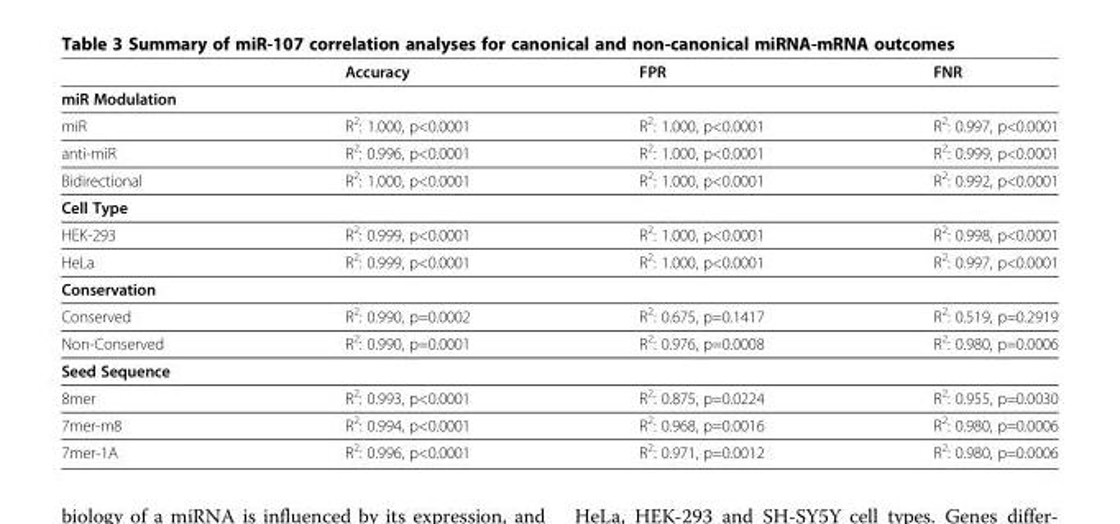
<table><thead><tr><td></td><td>Accuracy</td><td>FPR</td><td>FNR</td></tr></thead><tbody><tr><td colspan="4">miR Modulation</td></tr><tr><td>miR</td><td>R<sup>2</sup>: 1.000, p&lt;0.0001</td><td>R<sup>2</sup>: 1.000, p&lt;0.0001</td><td>R<sup>2</sup>: 0.997, p&lt;0.0001</td></tr><tr><td>anti-miR</td><td>R<sup>2</sup>: 0.996, p&lt;0.0001</td><td>R<sup>2</sup>: 1.000, p&lt;0.0001</td><td>R<sup>2</sup>: 0.999, p&lt;0.0001</td></tr><tr><td>Bidirectional</td><td>R<sup>2</sup>: 1.000, p&lt;0.0001</td><td>R<sup>2</sup>: 1.000, p&lt;0.0001</td><td>R<sup>2</sup>: 0.992, p&lt;0.0001</td></tr><tr><td colspan="4">Cell Type</td></tr><tr><td>HEK-293</td><td>R<sup>2</sup>: 0.999, p&lt;0.0001</td><td>R<sup>2</sup>: 1.000, p&lt;0.0001</td><td>R<sup>2</sup>: 0.998, p&lt;0.0001</td></tr><tr><td>HeLa</td><td>R<sup>2</sup>: 0.999, p&lt;0.0001</td><td>R<sup>2</sup>: 1.000, p&lt;0.0001</td><td>R<sup>2</sup>: 0.997, p&lt;0.0001</td></tr><tr><td colspan="4">Conservation</td></tr><tr><td>Conserved</td><td>R<sup>2</sup>: 0.990, p=0.0002</td><td>R<sup>2</sup>: 0.675, p=0.1417</td><td>R<sup>2</sup>: 0.519, p=0.2919</td></tr><tr><td>Non-Conserved</td><td>R<sup>2</sup>: 0.990, p=0.0001</td><td>R<sup>2</sup>: 0.976, p=0.0008</td><td>R<sup>2</sup>: 0.980, p=0.0006</td></tr><tr><td colspan="4">Seed Sequence</td></tr><tr><td>8mer</td><td>R<sup>2</sup>: 0.993, p&lt;0.0001</td><td>R<sup>2</sup>: 0.875, p=0.0224</td><td>R<sup>2</sup>: 0.955, p=0.0030</td></tr><tr><td>7mer-m8</td><td>R<sup>2</sup>: 0.994, p&lt;0.0001</td><td>R<sup>2</sup>: 0.968, p=0.0016</td><td>R<sup>2</sup>: 0.980, p=0.0006</td></tr><tr><td>7mer-1A</td><td>R<sup>2</sup>: 0.996, p&lt;0.0001</td><td>R<sup>2</sup>: 0.971, p=0.0012</td><td>R<sup>2</sup>: 0.980, p=0.0006</td></tr></tbody></table>